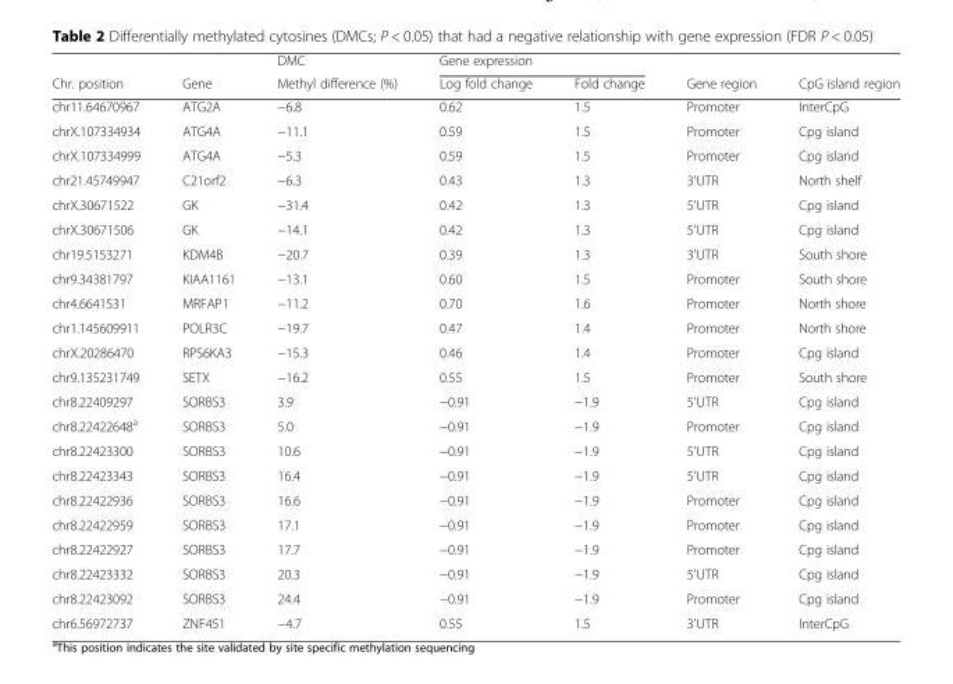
<table><thead><tr><td rowspan="2">Chr. position</td><td rowspan="2">Gene</td><td rowspan="2">DMC Methyl difference (%)</td><td colspan="2">Gene expression</td><td rowspan="2">Gene region</td><td rowspan="2">CpG island region</td></tr><tr><td>Log fold change</td><td>Fold change</td></tr></thead><tbody><tr><td>chr11.64670967</td><td>ATG2A</td><td>−6.8</td><td>0.62</td><td>1.5</td><td>Promoter</td><td>InterCpG</td></tr><tr><td>chrX.107334934</td><td>ATG4A</td><td>−11.1</td><td>0.59</td><td>1.5</td><td>Promoter</td><td>Cpg island</td></tr><tr><td>chrX.107334999</td><td>ATG4A</td><td>−5.3</td><td>0.59</td><td>1.5</td><td>Promoter</td><td>Cpg island</td></tr><tr><td>chr21.45749947</td><td>C21orf2</td><td>−6.3</td><td>0.43</td><td>1.3</td><td>3&#x27;UTR</td><td>North shelf</td></tr><tr><td>chrX.30671522</td><td>GK</td><td>−31.4</td><td>0.42</td><td>1.3</td><td>5&#x27;UTR</td><td>Cpg island</td></tr><tr><td>chrX.30671506</td><td>GK</td><td>−14.1</td><td>0.42</td><td>1.3</td><td>5&#x27;UTR</td><td>Cpg island</td></tr><tr><td>chr19.5153271</td><td>KDM4B</td><td>−20.7</td><td>0.39</td><td>1.3</td><td>3&#x27;UTR</td><td>South shore</td></tr><tr><td>chr9.34381797</td><td>KIAA1161</td><td>−13.1</td><td>0.60</td><td>1.5</td><td>Promoter</td><td>South shore</td></tr><tr><td>chr4.6641531</td><td>MRFAP1</td><td>−11.2</td><td>0.70</td><td>1.6</td><td>Promoter</td><td>North shore</td></tr><tr><td>chr1.145609911</td><td>POLR3C</td><td>−19.7</td><td>0.47</td><td>1.4</td><td>Promoter</td><td>North shore</td></tr><tr><td>chrX.20286470</td><td>RPS6KA3</td><td>−15.3</td><td>0.46</td><td>1.4</td><td>Promoter</td><td>Cpg island</td></tr><tr><td>chr9.135231749</td><td>SETX</td><td>−16.2</td><td>0.55</td><td>1.5</td><td>Promoter</td><td>South shore</td></tr><tr><td>chr8.22409297</td><td>SORBS3</td><td>3.9</td><td>−0.91</td><td>−1.9</td><td>5&#x27;UTR</td><td>Cpg island</td></tr><tr><td>chr8.22422648<sup>a</sup></td><td>SORBS3</td><td>5.0</td><td>−0.91</td><td>−1.9</td><td>Promoter</td><td>Cpg island</td></tr><tr><td>chr8.22423300</td><td>SORBS3</td><td>10.6</td><td>−0.91</td><td>−1.9</td><td>5&#x27;UTR</td><td>Cpg island</td></tr><tr><td>chr8.22423343</td><td>SORBS3</td><td>16.4</td><td>−0.91</td><td>−1.9</td><td>5&#x27;UTR</td><td>Cpg island</td></tr><tr><td>chr8.22422936</td><td>SORBS3</td><td>16.6</td><td>−0.91</td><td>−1.9</td><td>Promoter</td><td>Cpg island</td></tr><tr><td>chr8.22422959</td><td>SORBS3</td><td>17.1</td><td>−0.91</td><td>−1.9</td><td>Promoter</td><td>Cpg island</td></tr><tr><td>chr8.22422927</td><td>SORBS3</td><td>17.7</td><td>−0.91</td><td>−1.9</td><td>Promoter</td><td>Cpg island</td></tr><tr><td>chr8.22423332</td><td>SORBS3</td><td>20.3</td><td>−0.91</td><td>−1.9</td><td>5&#x27;UTR</td><td>Cpg island</td></tr><tr><td>chr8.22423092</td><td>SORBS3</td><td>24.4</td><td>−0.91</td><td>−1.9</td><td>Promoter</td><td>Cpg island</td></tr><tr><td>chr6.56972737</td><td>ZNF451</td><td>−4.7</td><td>0.55</td><td>1.5</td><td>3&#x27;UTR</td><td>InterCpG</td></tr></tbody></table>